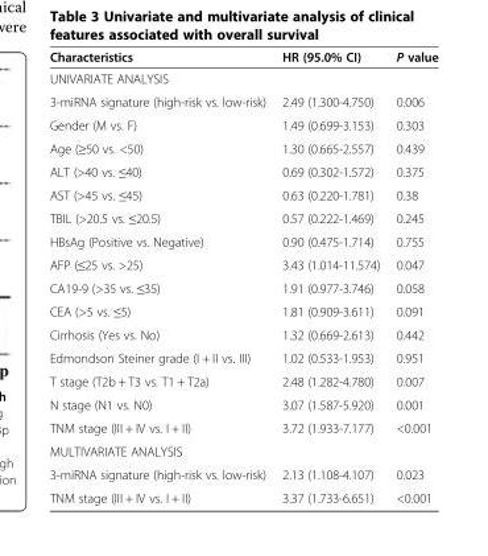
<table><thead><tr><td>Characteristics</td><td>HR (95.0% CI)</td><td>P value</td></tr></thead><tbody><tr><td colspan="3">UNIVARIATE ANALYSIS</td></tr><tr><td>3-miRNA signature (high-risk vs. low-risk)</td><td>2.49 (1.300-4.750)</td><td>0.006</td></tr><tr><td>Gender (M vs. F)</td><td>1.49 (0.699-3.153)</td><td>0.303</td></tr><tr><td>Age (≥50 vs. &lt;50)</td><td>1.30 (0.665-2.557)</td><td>0.439</td></tr><tr><td>ALT (&gt;40 vs. ≤40)</td><td>0.69 (0.302-1.572)</td><td>0.375</td></tr><tr><td>AST (&gt;45 vs. ≤45)</td><td>0.63 (0.220-1.781)</td><td>0.38</td></tr><tr><td>TBIL (&gt;20.5 vs. ≤20.5)</td><td>0.57 (0.222-1.469)</td><td>0.245</td></tr><tr><td>HBsAg (Positive vs. Negative)</td><td>0.90 (0.475-1.714)</td><td>0.755</td></tr><tr><td>AFP (≤25 vs. &gt;25)</td><td>3.43 (1.014-11.574)</td><td>0.047</td></tr><tr><td>CA19-9 (&gt;35 vs. ≤35)</td><td>1.91 (0.977-3.746)</td><td>0.058</td></tr><tr><td>CEA (&gt;5 vs. ≤5)</td><td>1.81 (0.909-3.611)</td><td>0.091</td></tr><tr><td>Cirrhosis (Yes vs. No)</td><td>1.32 (0.669-2.613)</td><td>0.442</td></tr><tr><td>Edmondson Steiner grade (I + II vs. III)</td><td>1.02 (0.533-1.953)</td><td>0.951</td></tr><tr><td>T stage (T2b + T3 vs. T1 + T2a)</td><td>2.48 (1.282-4.780)</td><td>0.007</td></tr><tr><td>N stage (N1 vs. N0)</td><td>3.07 (1.587-5.920)</td><td>0.001</td></tr><tr><td>TNM stage (III + IV vs. I + II)</td><td>3.72 (1.933-7.177)</td><td>&lt;0.001</td></tr><tr><td colspan="3">MULTIVARIATE ANALYSIS</td></tr><tr><td>3-miRNA signature (high-risk vs. low-risk)</td><td>2.13 (1.108-4.107)</td><td>0.023</td></tr><tr><td>TNM stage (III + IV vs. I + II)</td><td>3.37 (1.733-6.651)</td><td>&lt;0.001</td></tr></tbody></table>